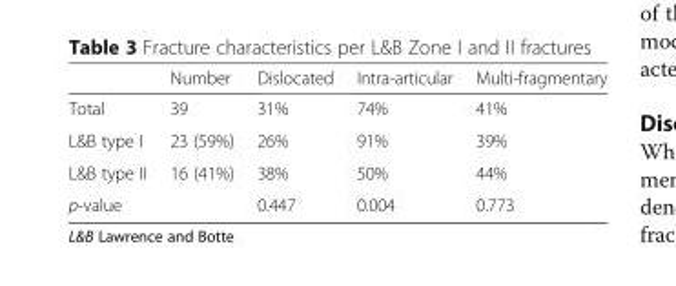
<table><thead><tr><td></td><td>Number</td><td>Dislocated</td><td>Intra-articular</td><td>Multi-fragmentary</td></tr></thead><tbody><tr><td>Total</td><td>39</td><td>31%</td><td>74%</td><td>41%</td></tr><tr><td>L&amp;B type I</td><td>23 (59%)</td><td>26%</td><td>91%</td><td>39%</td></tr><tr><td>L&amp;B type II</td><td>16 (41%)</td><td>38%</td><td>50%</td><td>44%</td></tr><tr><td>p-value</td><td></td><td>0.447</td><td>0.004</td><td>0.773</td></tr></tbody></table>